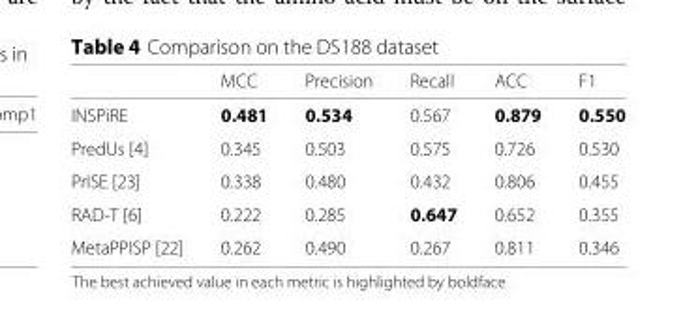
<table><thead><tr><td></td><td>MCC</td><td>Precision</td><td>Recall</td><td>ACC</td><td>F1</td></tr></thead><tbody><tr><td>INSPiRE</td><td>0.481</td><td>0.534</td><td>0.567</td><td>0.879</td><td>0.550</td></tr><tr><td>PredUs [4]</td><td>0.345</td><td>0.503</td><td>0.575</td><td>0.726</td><td>0.530</td></tr><tr><td>PrISE [23]</td><td>0.338</td><td>0.480</td><td>0.432</td><td>0.806</td><td>0.455</td></tr><tr><td>RAD-T [6]</td><td>0.222</td><td>0.285</td><td>0.647</td><td>0.652</td><td>0.355</td></tr><tr><td>MetaPPISP [22]</td><td>0.262</td><td>0.490</td><td>0.267</td><td>0.811</td><td>0.346</td></tr></tbody></table>